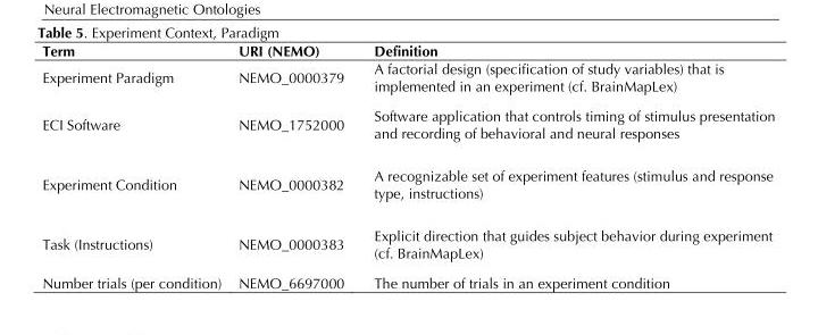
<table><thead><tr><td>Term</td><td>URI (NEMO)</td><td>Definition</td></tr></thead><tbody><tr><td>Experiment Paradigm</td><td>NEMO_0000379</td><td>A factorial design (specification of study variables) that is implemented in an experiment (cf. BrainMapLex)</td></tr><tr><td>ECI Software</td><td>NEMO_1752000</td><td>Software application that controls timing of stimulus presentation and recording of behavioral and neural responses</td></tr><tr><td>Experiment Condition</td><td>NEMO_0000382</td><td>A recognizable set of experiment features (stimulus and response type, instructions)</td></tr><tr><td>Task (Instructions)</td><td>NEMO_0000383</td><td>Explicit direction that guides subject behavior during experiment (cf. BrainMapLex)</td></tr><tr><td>Number trials (per condition)</td><td>NEMO_6697000</td><td>The number of trials in an experiment condition</td></tr></tbody></table>